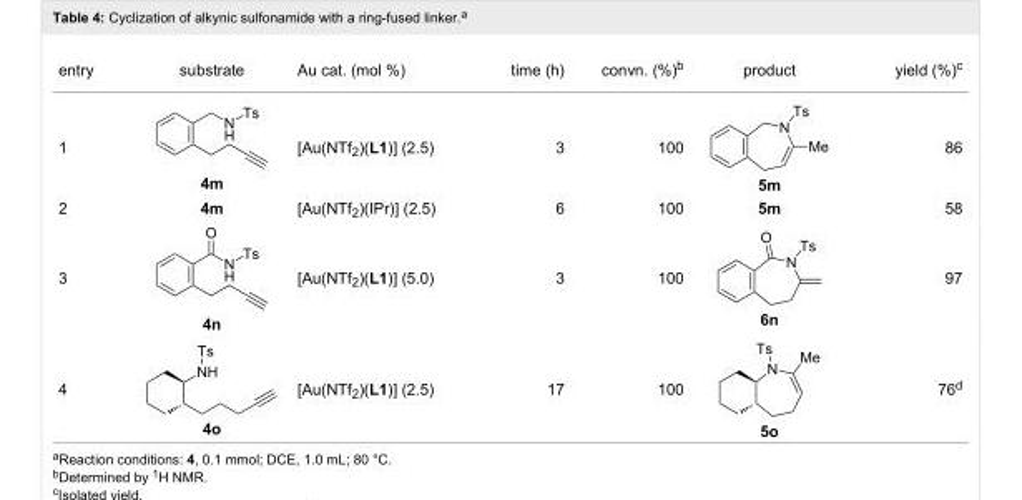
<table><tbody><tr><td>entry</td><td>substrate</td><td>Au cat. (mol %)</td><td>time (h)</td><td>convn. (%)<sup>b</sup></td><td>product</td><td>yield (%)<sup>c</sup></td></tr><tr><td>1</td><td>4m</td><td>[Au(NTf<sub>2</sub>)(L1)] (2.5)</td><td>3</td><td>100</td><td>5m</td><td>86</td></tr><tr><td>2</td><td>4m</td><td>[Au(NTf<sub>2</sub>)(IPr)] (2.5)</td><td>6</td><td>100</td><td>5m</td><td>58</td></tr><tr><td>3</td><td>4n</td><td>[Au(NTf<sub>2</sub>)(L1)] (5.0)</td><td>3</td><td>100</td><td>6n</td><td>97</td></tr><tr><td>4</td><td>4o</td><td>[Au(NTf<sub>2</sub>)(L1)] (2.5)</td><td>17</td><td>100</td><td>5o</td><td>76<sup>d</sup></td></tr></tbody></table>